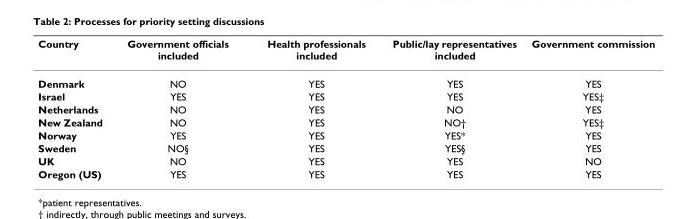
<table><thead><tr><td>Country</td><td>Government officials included</td><td>Health professionals included</td><td>Public/lay representatives included</td><td>Government commission</td></tr></thead><tbody><tr><td>Denmark</td><td>NO</td><td>YES</td><td>YES</td><td>YES</td></tr><tr><td>Israel</td><td>YES</td><td>YES</td><td>YES</td><td>YES‡</td></tr><tr><td>Netherlands</td><td>NO</td><td>YES</td><td>NO</td><td>YES</td></tr><tr><td>New Zealand</td><td>NO</td><td>YES</td><td>NO†</td><td>YES‡</td></tr><tr><td>Norway</td><td>YES</td><td>YES</td><td>YES*</td><td>YES</td></tr><tr><td>Sweden</td><td>NO§</td><td>YES</td><td>YES§</td><td>YES</td></tr><tr><td>UK</td><td>NO</td><td>YES</td><td>YES</td><td>NO</td></tr><tr><td>Oregon (US)</td><td>YES</td><td>YES</td><td>YES</td><td>YES</td></tr></tbody></table>